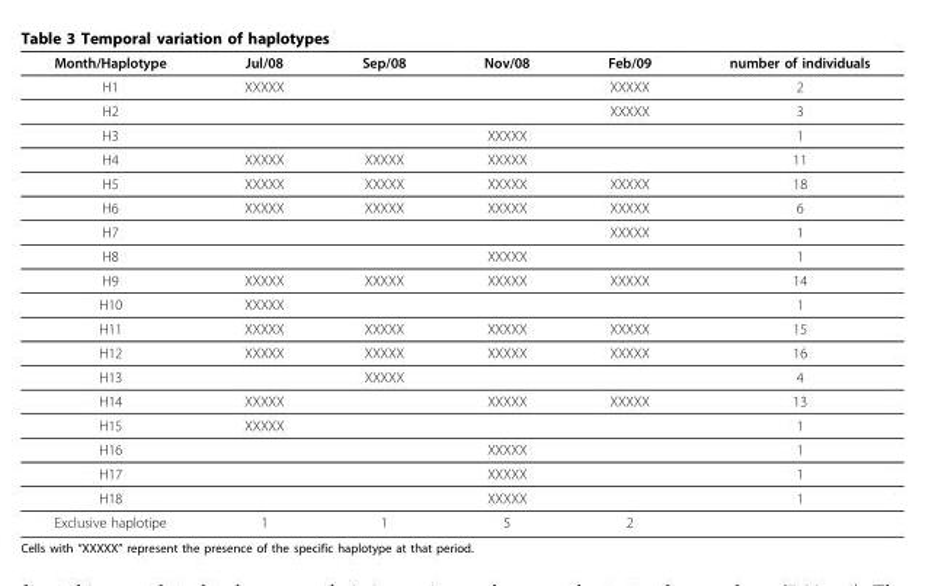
<table><thead><tr><td>Month/Haplotype</td><td>Jul/08</td><td>Sep/08</td><td>Nov/08</td><td>Feb/09</td><td>number of individuals</td></tr></thead><tbody><tr><td>H1</td><td>XXXXX</td><td></td><td></td><td>XXXXX</td><td>2</td></tr><tr><td>H2</td><td></td><td></td><td></td><td>XXXXX</td><td>3</td></tr><tr><td>H3</td><td></td><td></td><td>XXXXX</td><td></td><td>1</td></tr><tr><td>H4</td><td>XXXXX</td><td>XXXXX</td><td>XXXXX</td><td></td><td>11</td></tr><tr><td>H5</td><td>XXXXX</td><td>XXXXX</td><td>XXXXX</td><td>XXXXX</td><td>18</td></tr><tr><td>H6</td><td>XXXXX</td><td>XXXXX</td><td>XXXXX</td><td>XXXXX</td><td>6</td></tr><tr><td>H7</td><td></td><td></td><td></td><td>XXXXX</td><td>1</td></tr><tr><td>H8</td><td></td><td></td><td>XXXXX</td><td></td><td>1</td></tr><tr><td>H9</td><td>XXXXX</td><td>XXXXX</td><td>XXXXX</td><td>XXXXX</td><td>14</td></tr><tr><td>H10</td><td>XXXXX</td><td></td><td></td><td></td><td>1</td></tr><tr><td>H11</td><td>XXXXX</td><td>XXXXX</td><td>XXXXX</td><td>XXXXX</td><td>15</td></tr><tr><td>H12</td><td>XXXXX</td><td>XXXXX</td><td>XXXXX</td><td>XXXXX</td><td>16</td></tr><tr><td>H13</td><td></td><td>XXXXX</td><td></td><td></td><td>4</td></tr><tr><td>H14</td><td>XXXXX</td><td></td><td>XXXXX</td><td>XXXXX</td><td>13</td></tr><tr><td>H15</td><td>XXXXX</td><td></td><td></td><td></td><td>1</td></tr><tr><td>H16</td><td></td><td></td><td>XXXXX</td><td></td><td>1</td></tr><tr><td>H17</td><td></td><td></td><td>XXXXX</td><td></td><td>1</td></tr><tr><td>H18</td><td></td><td></td><td>XXXXX</td><td></td><td>1</td></tr><tr><td>Exclusive haplotipe</td><td>1</td><td>1</td><td>5</td><td>2</td><td></td></tr></tbody></table>